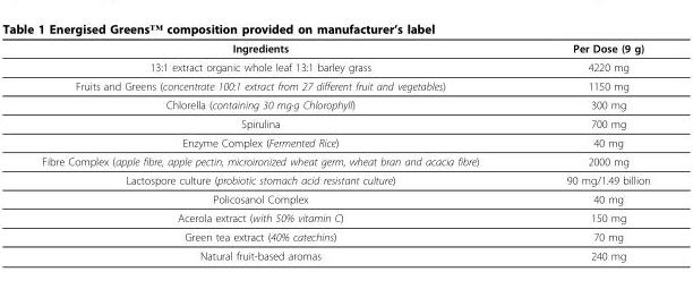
<table><thead><tr><td>Ingredients</td><td>Per Dose (9 g)</td></tr></thead><tbody><tr><td>13:1 extract organic whole leaf 13:1 barley grass</td><td>4220 mg</td></tr><tr><td>Fruits and Greens (concentrate 100:1 extract from 27 different fruit and vegetables)</td><td>1150 mg</td></tr><tr><td>Chlorella (containing 30 mg·g Chlorophyll)</td><td>300 mg</td></tr><tr><td>Spirulina</td><td>700 mg</td></tr><tr><td>Enzyme Complex (Fermented Rice)</td><td>40 mg</td></tr><tr><td>Fibre Complex (apple fibre, apple pectin, microironized wheat germ, wheat bran and acacia fibre)</td><td>2000 mg</td></tr><tr><td>Lactospore culture (probiotic stomach acid resistant culture)</td><td>90 mg/1.49 billion</td></tr><tr><td>Policosanol Complex</td><td>40 mg</td></tr><tr><td>Acerola extract (with 50% vitamin C)</td><td>150 mg</td></tr><tr><td>Green tea extract (40% catechins)</td><td>70 mg</td></tr><tr><td>Natural fruit-based aromas</td><td>240 mg</td></tr></tbody></table>